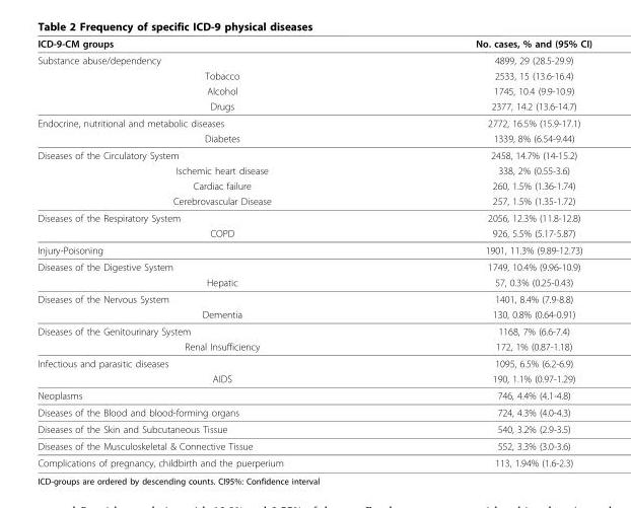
<table><thead><tr><td>ICD-9-CM groups</td><td>No. cases, % and (95% CI)</td></tr></thead><tbody><tr><td>Substance abuse/dependency</td><td>4899, 29 (28.5-29.9)</td></tr><tr><td>Tobacco</td><td>2533, 15 (13.6-16.4)</td></tr><tr><td>Alcohol</td><td>1745, 10.4 (9.9-10.9)</td></tr><tr><td>Drugs</td><td>2377, 14.2 (13.6-14.7)</td></tr><tr><td>Endocrine, nutritional and metabolic diseases</td><td>2772, 16.5% (15.9-17.1)</td></tr><tr><td>Diabetes</td><td>1339, 8% (6.54-9.44)</td></tr><tr><td>Diseases of the Circulatory System</td><td>2458, 14.7% (14-15.2)</td></tr><tr><td>Ischemic heart disease</td><td>338, 2% (0.55-3.6)</td></tr><tr><td>Cardiac failure</td><td>260, 1.5% (1.36-1.74)</td></tr><tr><td>Cerebrovascular Disease</td><td>257, 1.5% (1.35-1.72)</td></tr><tr><td>Diseases of the Respiratory System</td><td>2056, 12.3% (11.8-12.8)</td></tr><tr><td>COPD</td><td>926, 5.5% (5.17-5.87)</td></tr><tr><td>Injury-Poisoning</td><td>1901, 11.3% (9.89-12.73)</td></tr><tr><td>Diseases of the Digestive System</td><td>1749, 10.4% (9.96-10.9)</td></tr><tr><td>Hepatic</td><td>57, 0.3% (0.25-0.43)</td></tr><tr><td>Diseases of the Nervous System</td><td>1401, 8.4% (7.9-8.8)</td></tr><tr><td>Dementia</td><td>130, 0.8% (0.64-0.91)</td></tr><tr><td>Diseases of the Genitourinary System</td><td>1168, 7% (6.6-7.4)</td></tr><tr><td>Renal Insufficiency</td><td>172, 1% (0.87-1.18)</td></tr><tr><td>Infectious and parasitic diseases</td><td>1095, 6.5% (6.2-6.9)</td></tr><tr><td>AIDS</td><td>190, 1.1% (0.97-1.29)</td></tr><tr><td>Neoplasms</td><td>746, 4.4% (4.1-4.8)</td></tr><tr><td>Diseases of the Blood and blood-forming organs</td><td>724, 4.3% (4.0-4.3)</td></tr><tr><td>Diseases of the Skin and Subcutaneous Tissue</td><td>540, 3.2% (2.9-3.5)</td></tr><tr><td>Diseases of the Musculoskeletal &amp; Connective Tissue</td><td>552, 3.3% (3.0-3.6)</td></tr><tr><td>Complications of pregnancy, childbirth and the puerperium</td><td>113, 1.94% (1.6-2.3)</td></tr></tbody></table>